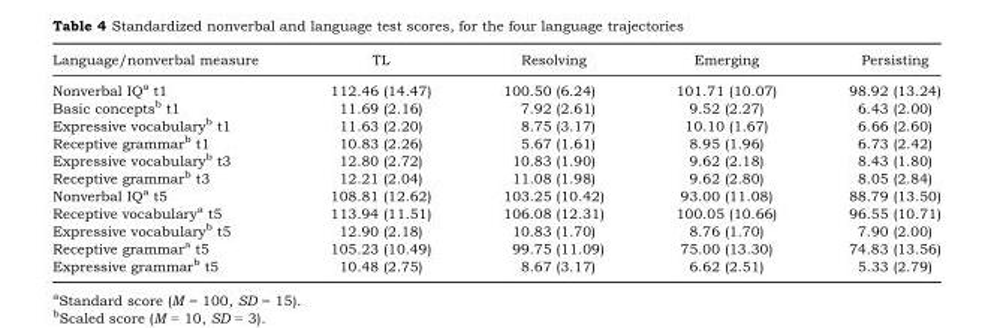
<table><thead><tr><td>Language/nonverbal measure</td><td>TL</td><td>Resolving</td><td>Emerging</td><td>Persisting</td></tr></thead><tbody><tr><td>Nonverbal IQ<sup>a</sup> t1</td><td>112.46 (14.47)</td><td>100.50 (6.24)</td><td>101.71 (10.07)</td><td>98.92 (13.24)</td></tr><tr><td>Basic concepts<sup>b</sup> t1</td><td>11.69 (2.16)</td><td>7.92 (2.61)</td><td>9.52 (2.27)</td><td>6.43 (2.00)</td></tr><tr><td>Expressive vocabulary<sup>b</sup> t1</td><td>11.63 (2.20)</td><td>8.75 (3.17)</td><td>10.10 (1.67)</td><td>6.66 (2.60)</td></tr><tr><td>Receptive grammar<sup>b</sup> t1</td><td>10.83 (2.26)</td><td>5.67 (1.61)</td><td>8.95 (1.96)</td><td>6.73 (2.42)</td></tr><tr><td>Expressive vocabulary<sup>b</sup> t3</td><td>12.80 (2.72)</td><td>10.83 (1.90)</td><td>9.62 (2.18)</td><td>8.43 (1.80)</td></tr><tr><td>Receptive grammar<sup>b</sup> t3</td><td>12.21 (2.04)</td><td>11.08 (1.98)</td><td>9.62 (2.80)</td><td>8.05 (2.84)</td></tr><tr><td>Nonverbal IQ<sup>a</sup> t5</td><td>108.81 (12.62)</td><td>103.25 (10.42)</td><td>93.00 (11.08)</td><td>88.79 (13.50)</td></tr><tr><td>Receptive vocabulary<sup>a</sup> t5</td><td>113.94 (11.51)</td><td>106.08 (12.31)</td><td>100.05 (10.66)</td><td>96.55 (10.71)</td></tr><tr><td>Expressive vocabulary<sup>b</sup> t5</td><td>12.90 (2.18)</td><td>10.83 (1.70)</td><td>8.76 (1.70)</td><td>7.90 (2.00)</td></tr><tr><td>Receptive grammar<sup>a</sup> t5</td><td>105.23 (10.49)</td><td>99.75 (11.09)</td><td>75.00 (13.30)</td><td>74.83 (13.56)</td></tr><tr><td>Expressive grammar<sup>b</sup> t5</td><td>10.48 (2.75)</td><td>8.67 (3.17)</td><td>6.62 (2.51)</td><td>5.33 (2.79)</td></tr></tbody></table>